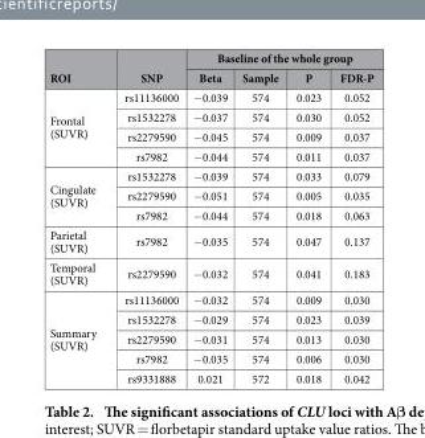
<table><thead><tr><td rowspan="2">ROI</td><td rowspan="2">SNP</td><td colspan="4">Baseline of the whole group</td></tr><tr><td>Beta</td><td>Sample</td><td>P</td><td>FDR-P</td></tr></thead><tbody><tr><td rowspan="4">Frontal (SUVR)</td><td>rs11136000</td><td>− 0.039</td><td>574</td><td>0.023</td><td>0.052</td></tr><tr><td>rs1532278</td><td>− 0.037</td><td>574</td><td>0.030</td><td>0.052</td></tr><tr><td>rs2279590</td><td>− 0.045</td><td>574</td><td>0.009</td><td>0.037</td></tr><tr><td>rs7982</td><td>− 0.044</td><td>574</td><td>0.011</td><td>0.037</td></tr><tr><td rowspan="3">Cingulate (SUVR)</td><td>rs1532278</td><td>− 0.039</td><td>574</td><td>0.033</td><td>0.079</td></tr><tr><td>rs2279590</td><td>− 0.051</td><td>574</td><td>0.005</td><td>0.035</td></tr><tr><td>rs7982</td><td>− 0.044</td><td>574</td><td>0.018</td><td>0.063</td></tr><tr><td>Parietal (SUVR)</td><td>rs7982</td><td>− 0.035</td><td>574</td><td>0.047</td><td>0.137</td></tr><tr><td>Temporal (SUVR)</td><td>rs2279590</td><td>− 0.032</td><td>574</td><td>0.041</td><td>0.183</td></tr><tr><td rowspan="5">Summary (SUVR)</td><td>rs11136000</td><td>− 0.032</td><td>574</td><td>0.009</td><td>0.030</td></tr><tr><td>rs1532278</td><td>− 0.029</td><td>574</td><td>0.023</td><td>0.039</td></tr><tr><td>rs2279590</td><td>− 0.031</td><td>574</td><td>0.013</td><td>0.030</td></tr><tr><td>rs7982</td><td>− 0.035</td><td>574</td><td>0.006</td><td>0.030</td></tr><tr><td>rs9331888</td><td>0.021</td><td>572</td><td>0.018</td><td>0.042</td></tr></tbody></table>